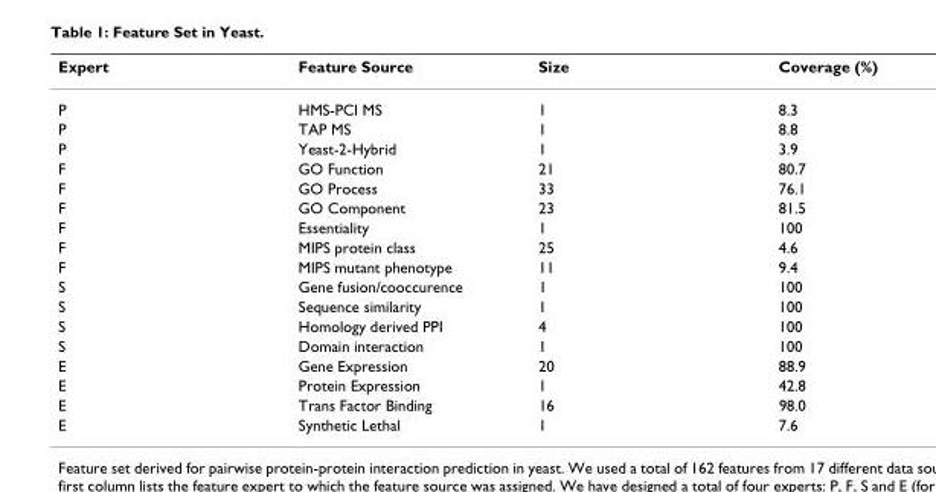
<table><thead><tr><td>Expert</td><td>Feature Source</td><td>Size</td><td>Coverage (%)</td></tr></thead><tbody><tr><td>P</td><td>HMS-PCI MS</td><td>1</td><td>8.3</td></tr><tr><td>P</td><td>TAP MS</td><td>1</td><td>8.8</td></tr><tr><td>P</td><td>Yeast-2-Hybrid</td><td>1</td><td>3.9</td></tr><tr><td>F</td><td>GO Function</td><td>21</td><td>80.7</td></tr><tr><td>F</td><td>GO Process</td><td>33</td><td>76.1</td></tr><tr><td>F</td><td>GO Component</td><td>23</td><td>81.5</td></tr><tr><td>F</td><td>Essentiality</td><td>1</td><td>100</td></tr><tr><td>F</td><td>MIPS protein class</td><td>25</td><td>4.6</td></tr><tr><td>F</td><td>MIPS mutant phenotype</td><td>11</td><td>9.4</td></tr><tr><td>S</td><td>Gene fusion/cooccurence</td><td>1</td><td>100</td></tr><tr><td>S</td><td>Sequence similarity</td><td>1</td><td>100</td></tr><tr><td>S</td><td>Homology derived PPI</td><td>4</td><td>100</td></tr><tr><td>S</td><td>Domain interaction</td><td>1</td><td>100</td></tr><tr><td>E</td><td>Gene Expression</td><td>20</td><td>88.9</td></tr><tr><td>E</td><td>Protein Expression</td><td>1</td><td>42.8</td></tr><tr><td>E</td><td>Trans Factor Binding</td><td>16</td><td>98.0</td></tr><tr><td>E</td><td>Synthetic Lethal</td><td>1</td><td>7.6</td></tr></tbody></table>